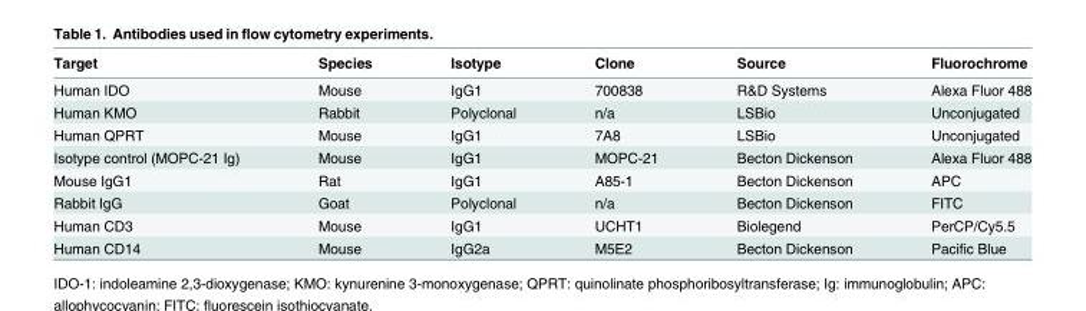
<table><thead><tr><td>Target</td><td>Species</td><td>Isotype</td><td>Clone</td><td>Source</td><td>Fluorochrome</td></tr></thead><tbody><tr><td>Human IDO</td><td>Mouse</td><td>IgG1</td><td>700838</td><td>R&amp;D Systems</td><td>Alexa Fluor 488</td></tr><tr><td>Human KMO</td><td>Rabbit</td><td>Polyclonal</td><td>n/a</td><td>LSBio</td><td>Unconjugated</td></tr><tr><td>Human QPRT</td><td>Mouse</td><td>IgG1</td><td>7A8</td><td>LSBio</td><td>Unconjugated</td></tr><tr><td>Isotype control (MOPC-21 Ig)</td><td>Mouse</td><td>IgG1</td><td>MOPC-21</td><td>Becton Dickenson</td><td>Alexa Fluor 488</td></tr><tr><td>Mouse IgG1</td><td>Rat</td><td>IgG1</td><td>A85-1</td><td>Becton Dickenson</td><td>APC</td></tr><tr><td>Rabbit IgG</td><td>Goat</td><td>Polyclonal</td><td>n/a</td><td>Becton Dickenson</td><td>FITC</td></tr><tr><td>Human CD3</td><td>Mouse</td><td>IgG1</td><td>UCHT1</td><td>Biolegend</td><td>PerCP/Cy5.5</td></tr><tr><td>Human CD14</td><td>Mouse</td><td>IgG2a</td><td>M5E2</td><td>Becton Dickenson</td><td>Pacific Blue</td></tr></tbody></table>